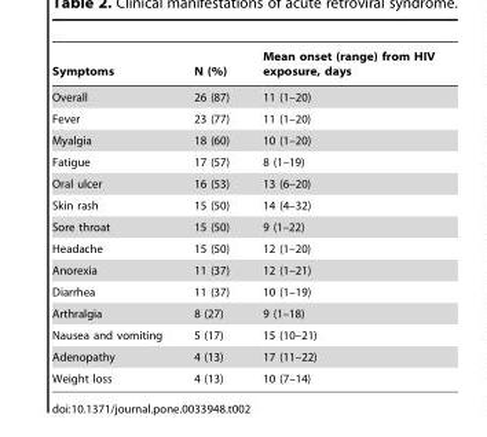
<table><thead><tr><td>Symptoms</td><td>N (%)</td><td>Mean onset (range) from HIV exposure, days</td></tr></thead><tbody><tr><td>Overall</td><td>26 (87)</td><td>11 (1–20)</td></tr><tr><td>Fever</td><td>23 (77)</td><td>11 (1–20)</td></tr><tr><td>Myalgia</td><td>18 (60)</td><td>10 (1–20)</td></tr><tr><td>Fatigue</td><td>17 (57)</td><td>8 (1–19)</td></tr><tr><td>Oral ulcer</td><td>16 (53)</td><td>13 (6–20)</td></tr><tr><td>Skin rash</td><td>15 (50)</td><td>14 (4–32)</td></tr><tr><td>Sore throat</td><td>15 (50)</td><td>9 (1–22)</td></tr><tr><td>Headache</td><td>15 (50)</td><td>12 (1–20)</td></tr><tr><td>Anorexia</td><td>11 (37)</td><td>12 (1–21)</td></tr><tr><td>Diarrhea</td><td>11 (37)</td><td>10 (1–19)</td></tr><tr><td>Arthralgia</td><td>8 (27)</td><td>9 (1–18)</td></tr><tr><td>Nausea and vomiting</td><td>5 (17)</td><td>15 (10–21)</td></tr><tr><td>Adenopathy</td><td>4 (13)</td><td>17 (11–22)</td></tr><tr><td>Weight loss</td><td>4 (13)</td><td>10 (7–14)</td></tr></tbody></table>